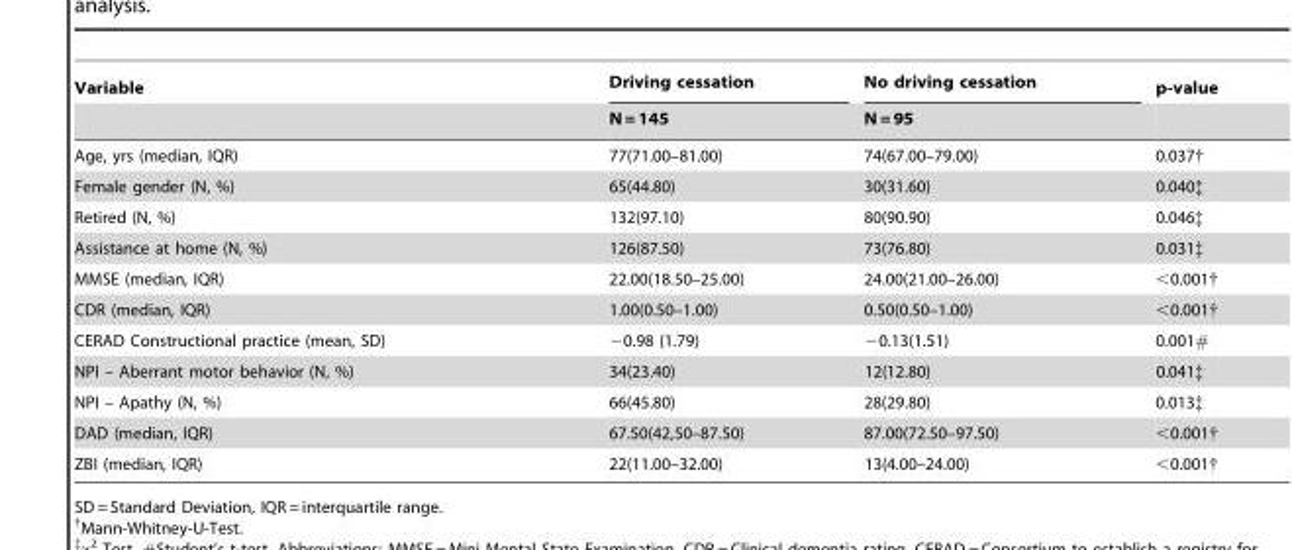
<table><thead><tr><td rowspan="2">Variable</td><td rowspan="2">Driving cessation N = 145</td><td rowspan="2">No driving cessation N = 95</td><td rowspan="2">p-value</td></tr><tr></tr></thead><tbody><tr><td>Age, yrs (median, IQR)</td><td>77(71.00–81.00)</td><td>74(67.00–79.00)</td><td>0.037†</td></tr><tr><td>Female gender (N, %)</td><td>65(44.80)</td><td>30(31.60)</td><td>0.040‡</td></tr><tr><td>Retired (N, %)</td><td>132(97.10)</td><td>80(90.90)</td><td>0.046‡</td></tr><tr><td>Assistance at home (N, %)</td><td>126(87.50)</td><td>73(76.80)</td><td>0.031‡</td></tr><tr><td>MMSE (median, IQR)</td><td>22.00(18.50–25.00)</td><td>24.00(21.00–26.00)</td><td>&lt;0.001†</td></tr><tr><td>CDR (median, IQR)</td><td>1.00(0.50–1.00)</td><td>0.50(0.50–1.00)</td><td>&lt;0.001†</td></tr><tr><td>CERAD Constructional practice (mean, SD)</td><td>−0.98 (1.79)</td><td>−0.13(1.51)</td><td>0.001#</td></tr><tr><td>NPI – Aberrant motor behavior (N, %)</td><td>34(23.40)</td><td>12(12.80)</td><td>0.041‡</td></tr><tr><td>NPI – Apathy (N, %)</td><td>66(45.80)</td><td>28(29.80)</td><td>0.013‡</td></tr><tr><td>DAD (median, IQR)</td><td>67.50(42,50–87.50)</td><td>87.00(72.50–97.50)</td><td>&lt;0.001†</td></tr><tr><td>ZBI (median, IQR)</td><td>22(11.00–32.00)</td><td>13(4.00–24.00)</td><td>&lt;0.001†</td></tr></tbody></table>